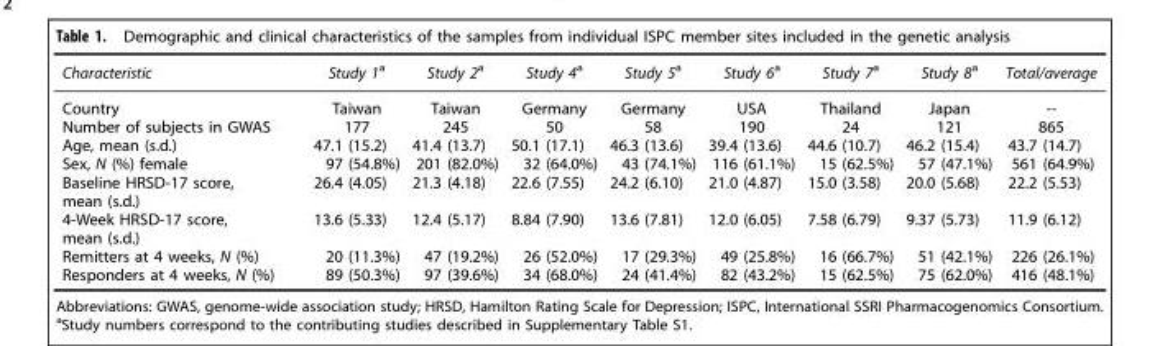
<table><thead><tr><td>Characteristic</td><td>Study 1<sup>a</sup></td><td>Study 2<sup>a</sup></td><td>Study 4<sup>a</sup></td><td>Study 5<sup>a</sup></td><td>Study 6<sup>a</sup></td><td>Study 7<sup>a</sup></td><td>Study 8<sup>a</sup></td><td>Total/average</td></tr></thead><tbody><tr><td>Country</td><td>Taiwan</td><td>Taiwan</td><td>Germany</td><td>Germany</td><td>USA</td><td>Thailand</td><td>Japan</td><td>--</td></tr><tr><td>Number of subjects in GWAS</td><td>177</td><td>245</td><td>50</td><td>58</td><td>190</td><td>24</td><td>121</td><td>865</td></tr><tr><td>Age, mean (s.d.)</td><td>47.1 (15.2)</td><td>41.4 (13.7)</td><td>50.1 (17.1)</td><td>46.3 (13.6)</td><td>39.4 (13.6)</td><td>44.6 (10.7)</td><td>46.2 (15.4)</td><td>43.7 (14.7)</td></tr><tr><td>Sex, N (%) female</td><td>97 (54.8%)</td><td>201 (82.0%)</td><td>32 (64.0%)</td><td>43 (74.1%)</td><td>116 (61.1%)</td><td>15 (62.5%)</td><td>57 (47.1%)</td><td>561 (64.9%)</td></tr><tr><td>Baseline HRSD-17 score, mean (s.d.)</td><td>26.4 (4.05)</td><td>21.3 (4.18)</td><td>22.6 (7.55)</td><td>24.2 (6.10)</td><td>21.0 (4.87)</td><td>15.0 (3.58)</td><td>20.0 (5.68)</td><td>22.2 (5.53)</td></tr><tr><td>4-Week HRSD-17 score, mean (s.d.)</td><td>13.6 (5.33)</td><td>12.4 (5.17)</td><td>8.84 (7.90)</td><td>13.6 (7.81)</td><td>12.0 (6.05)</td><td>7.58 (6.79)</td><td>9.37 (5.73)</td><td>11.9 (6.12)</td></tr><tr><td>Remitters at 4 weeks, N (%)</td><td>20 (11.3%)</td><td>47 (19.2%)</td><td>26 (52.0%)</td><td>17 (29.3%)</td><td>49 (25.8%)</td><td>16 (66.7%)</td><td>51 (42.1%)</td><td>226 (26.1%)</td></tr><tr><td>Responders at 4 weeks, N (%)</td><td>89 (50.3%)</td><td>97 (39.6%)</td><td>34 (68.0%)</td><td>24 (41.4%)</td><td>82 (43.2%)</td><td>15 (62.5%)</td><td>75 (62.0%)</td><td>416 (48.1%)</td></tr></tbody></table>